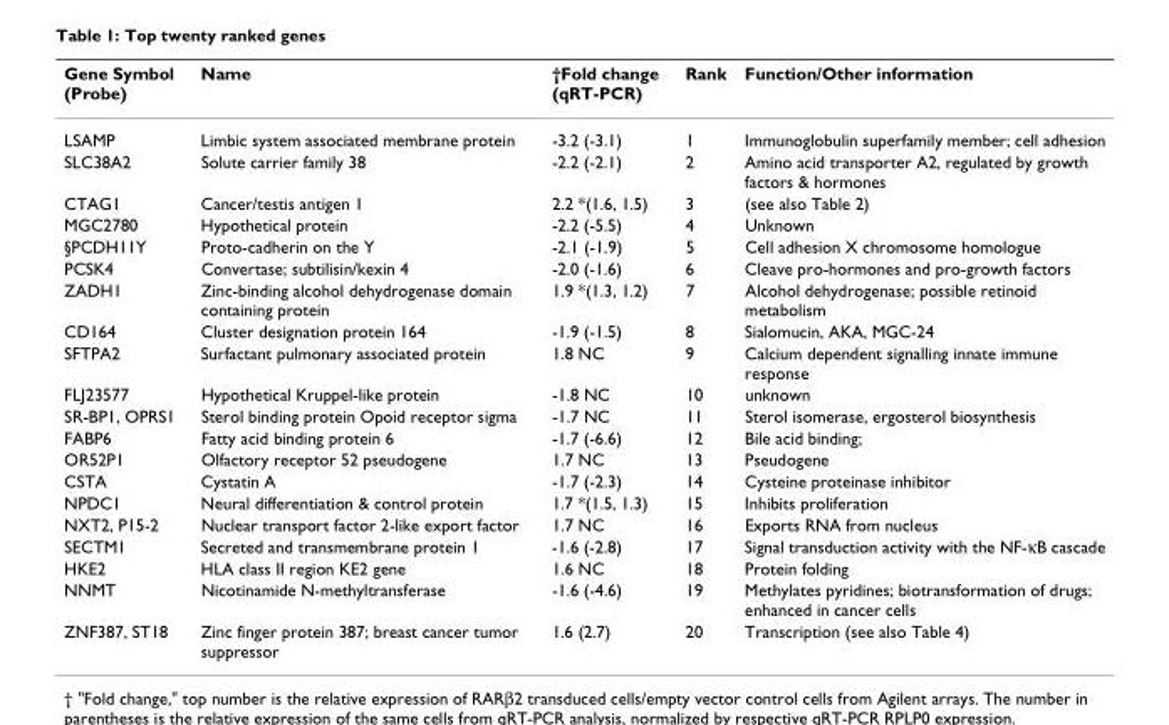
<table><thead><tr><td>Gene Symbol (Probe)</td><td>Name</td><td>†Fold change (qRT-PCR)</td><td>Rank</td><td>Function/Other information</td></tr></thead><tbody><tr><td>LSAMP</td><td>Limbic system associated membrane protein</td><td>-3.2 (-3.1)</td><td>1</td><td>Immunoglobulin superfamily member; cell adhesion</td></tr><tr><td>SLC38A2</td><td>Solute carrier family 38</td><td>-2.2 (-2.1)</td><td>2</td><td>Amino acid transporter A2, regulated by growth factors &amp; hormones</td></tr><tr><td>CTAG1</td><td>Cancer/testis antigen 1</td><td>2.2 *(1.6, 1.5)</td><td>3</td><td>(see also Table 2)</td></tr><tr><td>MGC2780</td><td>Hypothetical protein</td><td>-2.2 (-5.5)</td><td>4</td><td>Unknown</td></tr><tr><td>§PCDH11Y</td><td>Proto-cadherin on the Y</td><td>-2.1 (-1.9)</td><td>5</td><td>Cell adhesion X chromosome homologue</td></tr><tr><td>PCSK4</td><td>Convertase; subtilisin/kexin 4</td><td>-2.0 (-1.6)</td><td>6</td><td>Cleave pro-hormones and pro-growth factors</td></tr><tr><td>ZADH1</td><td>Zinc-binding alcohol dehydrogenase domain containing protein</td><td>1.9 *(1.3, 1.2)</td><td>7</td><td>Alcohol dehydrogenase; possible retinoid metabolism</td></tr><tr><td>CD164</td><td>Cluster designation protein 164</td><td>-1.9 (-1.5)</td><td>8</td><td>Sialomucin, AKA, MGC-24</td></tr><tr><td>SFTPA2</td><td>Surfactant pulmonary associated protein</td><td>1.8 NC</td><td>9</td><td>Calcium dependent signalling innate immune response</td></tr><tr><td>FLJ23577</td><td>Hypothetical Kruppel-like protein</td><td>-1.8 NC</td><td>10</td><td>unknown</td></tr><tr><td>SR-BP1, OPRS1</td><td>Sterol binding protein Opoid receptor sigma</td><td>-1.7 NC</td><td>11</td><td>Sterol isomerase, ergosterol biosynthesis</td></tr><tr><td>FABP6</td><td>Fatty acid binding protein 6</td><td>-1.7 (-6.6)</td><td>12</td><td>Bile acid binding;</td></tr><tr><td>OR52P1</td><td>Olfactory receptor 52 pseudogene</td><td>1.7 NC</td><td>13</td><td>Pseudogene</td></tr><tr><td>CSTA</td><td>Cystatin A</td><td>-1.7 (-2.3)</td><td>14</td><td>Cysteine proteinase inhibitor</td></tr><tr><td>NPDC1</td><td>Neural differentiation &amp; control protein</td><td>1.7 *(1.5, 1.3)</td><td>15</td><td>Inhibits proliferation</td></tr><tr><td>NXT2, P15-2</td><td>Nuclear transport factor 2-like export factor</td><td>1.7 NC</td><td>16</td><td>Exports RNA from nucleus</td></tr><tr><td>SECTM1</td><td>Secreted and transmembrane protein 1</td><td>-1.6 (-2.8)</td><td>17</td><td>Signal transduction activity with the NF-κB cascade</td></tr><tr><td>HKE2</td><td>HLA class II region KE2 gene</td><td>1.6 NC</td><td>18</td><td>Protein folding</td></tr><tr><td>NNMT</td><td>Nicotinamide N-methyltransferase</td><td>-1.6 (-4.6)</td><td>19</td><td>Methylates pyridines; biotransformation of drugs; enhanced in cancer cells</td></tr><tr><td>ZNF387, ST18</td><td>Zinc finger protein 387; breast cancer tumor suppressor</td><td>1.6 (2.7)</td><td>20</td><td>Transcription (see also Table 4)</td></tr></tbody></table>